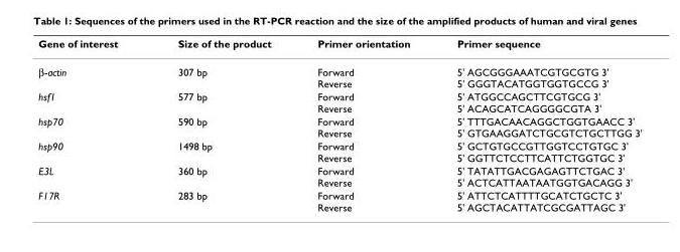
<table><thead><tr><td>Gene of interest</td><td>Size of the product</td><td>Primer orientation</td><td>Primer sequence</td></tr></thead><tbody><tr><td>β-actin</td><td>307 bp</td><td>Forward Reverse</td><td>5&#x27; AGCGGGAAATCGTGCGTG 3&#x27; 5&#x27; GGGTACATGGTGGTGCCG 3&#x27;</td></tr><tr><td>hsf1</td><td>577 bp</td><td>Forward Reverse</td><td>5&#x27; ATGGCCAGCTTCGTGCG 3&#x27; 5&#x27; ACAGCATCAGGGGCGTA 3&#x27;</td></tr><tr><td>hsp70</td><td>590 bp</td><td>Forward Reverse</td><td>5&#x27; TTTGACAACAGGCTGGTGAACC 3&#x27; 5&#x27; GTGAAGGATCTGCGTCTGCTTGG 3&#x27;</td></tr><tr><td>hsp90</td><td>1498 bp</td><td>Forward Reverse</td><td>5&#x27; GCTGTGCCGTTGGTCCTGTGC 3&#x27; 5&#x27; GGTTCTCCTTCATTCTGGTGC 3&#x27;</td></tr><tr><td>E3L</td><td>360 bp</td><td>Forward Reverse</td><td>5&#x27; TATATTGACGAGAGTTCTGAC 3&#x27; 5&#x27; ACTCATTAATAATGGTGACAGG 3&#x27;</td></tr><tr><td>F17R</td><td>283 bp</td><td>Forward Reverse</td><td>5&#x27; ATTCTCATTTTGCATCTGCTC 3&#x27; 5&#x27; AGCTACATTATCGCGATTAGC 3&#x27;</td></tr></tbody></table>